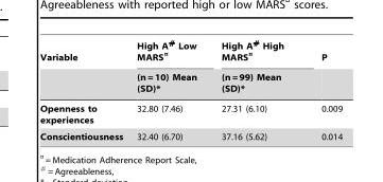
<table><thead><tr><td rowspan="2">Variable</td><td rowspan="2">High A# Low MARS¤ (n = 10) Mean (SD)*</td><td rowspan="2">High A# High MARS¤ (n = 99) Mean (SD)*</td><td rowspan="2">P</td></tr><tr></tr></thead><tbody><tr><td>Openness to experiences</td><td>32.80 (7.46)</td><td>27.31 (6.10)</td><td>0.009</td></tr><tr><td>Conscientiousness</td><td>32.40 (6.70)</td><td>37.16 (5.62)</td><td>0.014</td></tr></tbody></table>